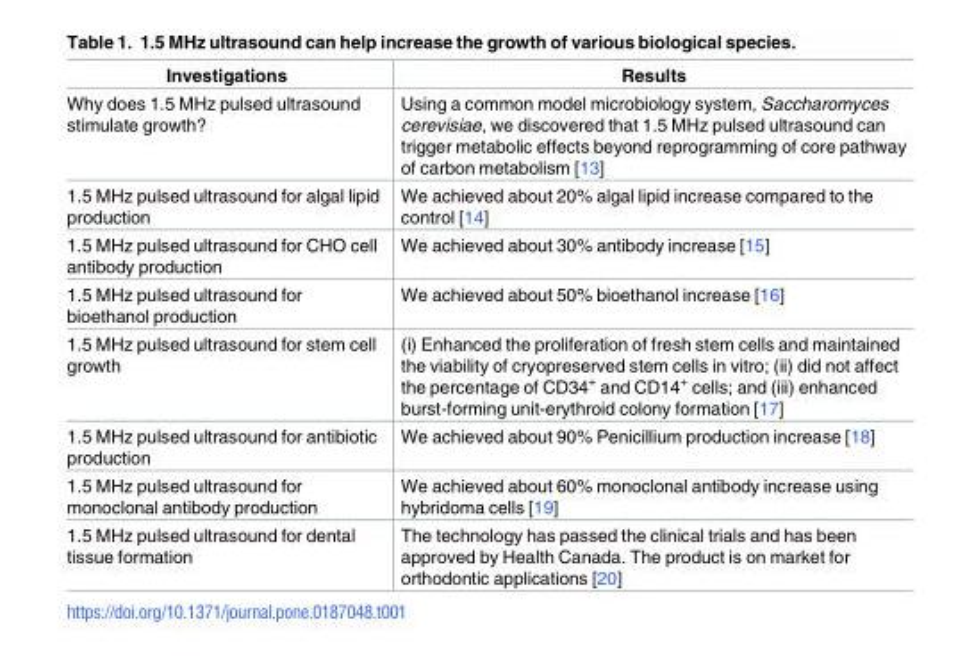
<table><thead><tr><td>Investigations</td><td>Results</td></tr></thead><tbody><tr><td>Why does 1.5 MHz pulsed ultrasound stimulate growth?</td><td>Using a common model microbiology system, Saccharomyces cerevisiae, we discovered that 1.5 MHz pulsed ultrasound can trigger metabolic effects beyond reprogramming of core pathway of carbon metabolism [13]</td></tr><tr><td>1.5 MHz pulsed ultrasound for algal lipid production</td><td>We achieved about 20% algal lipid increase compared to the control [14]</td></tr><tr><td>1.5 MHz pulsed ultrasound for CHO cell antibody production</td><td>We achieved about 30% antibody increase [15]</td></tr><tr><td>1.5 MHz pulsed ultrasound for bioethanol production</td><td>We achieved about 50% bioethanol increase [16]</td></tr><tr><td>1.5 MHz pulsed ultrasound for stem cell growth</td><td>(i) Enhanced the proliferation of fresh stem cells and maintained the viability of cryopreserved stem cells in vitro; (ii) did not affect the percentage of CD34<sup>+</sup> and CD14<sup>+</sup> cells; and (iii) enhanced burst-forming unit-erythroid colony formation [17]</td></tr><tr><td>1.5 MHz pulsed ultrasound for antibiotic production</td><td>We achieved about 90% Penicillium production increase [18]</td></tr><tr><td>1.5 MHz pulsed ultrasound for monoclonal antibody production</td><td>We achieved about 60% monoclonal antibody increase using hybridoma cells [19]</td></tr><tr><td>1.5 MHz pulsed ultrasound for dental tissue formation</td><td>The technology has passed the clinical trials and has been approved by Health Canada. The product is on market for orthodontic applications [20]</td></tr></tbody></table>